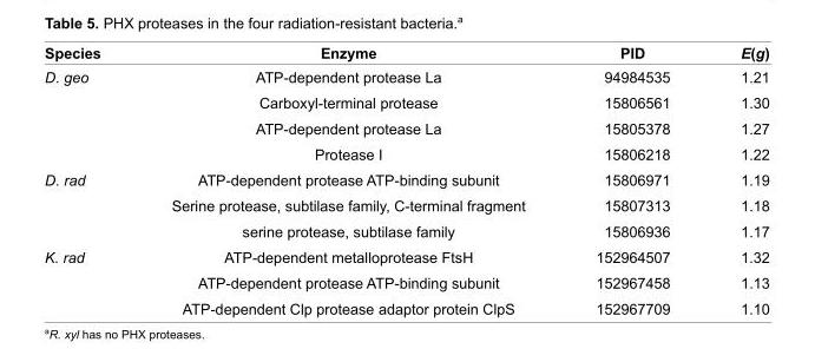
<table><thead><tr><td>Species</td><td>Enzyme</td><td>PID</td><td>E(g)</td></tr></thead><tbody><tr><td rowspan="4">D. geo</td><td>aTP-dependent protease la</td><td>94984535</td><td>1.21</td></tr><tr><td>carboxyl-terminal protease</td><td>15806561</td><td>1.30</td></tr><tr><td>aTP-dependent protease la</td><td>15805378</td><td>1.27</td></tr><tr><td>Protease i</td><td>15806218</td><td>1.22</td></tr><tr><td rowspan="3">D. rad</td><td>aTP-dependent protease aTP-binding subunit</td><td>15806971</td><td>1.19</td></tr><tr><td>serine protease, subtilase family, c-terminal fragment</td><td>15807313</td><td>1.18</td></tr><tr><td>serine protease, subtilase family</td><td>15806936</td><td>1.17</td></tr><tr><td rowspan="3">K. rad</td><td>aTP-dependent metalloprotease Ftsh</td><td>152964507</td><td>1.32</td></tr><tr><td>aTP-dependent protease aTP-binding subunit</td><td>152967458</td><td>1.13</td></tr><tr><td>aTP-dependent clp protease adaptor protein clps</td><td>152967709</td><td>1.10</td></tr></tbody></table>